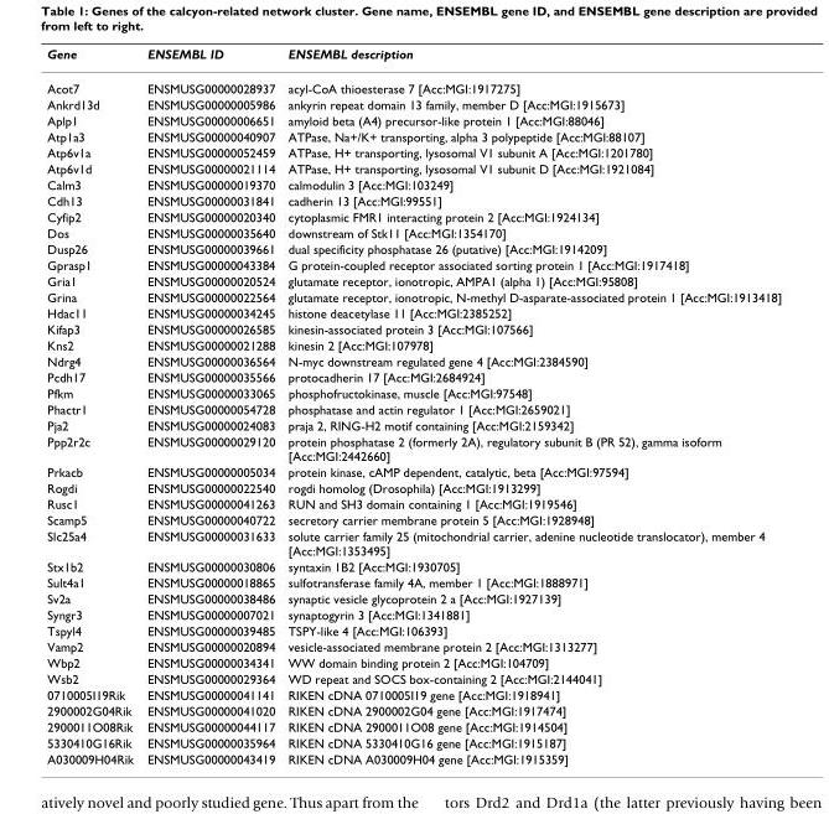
<table><thead><tr><td>Gene</td><td>ENSEMBL ID</td><td>ENSEMBL description</td></tr></thead><tbody><tr><td>Acot7</td><td>ENSMUSG00000028937</td><td>acyl-CoA thioesterase 7 [Acc:MGI:1917275]</td></tr><tr><td>Ankrd13d</td><td>ENSMUSG00000005986</td><td>ankyrin repeat domain 13 family, member D [Acc:MGI:1915673]</td></tr><tr><td>Aplp1</td><td>ENSMUSG00000006651</td><td>amyloid beta (A4) precursor-like protein 1 [Acc:MGI:88046]</td></tr><tr><td>Atp1a3</td><td>ENSMUSG00000040907</td><td>ATPase, Na+/K+ transporting, alpha 3 polypeptide [Acc:MGI:88107]</td></tr><tr><td>Atp6v1a</td><td>ENSMUSG00000052459</td><td>ATPase, H+ transporting, lysosomal V1 subunit A [Acc:MGI:1201780]</td></tr><tr><td>Atp6v1d</td><td>ENSMUSG00000021114</td><td>ATPase, H+ transporting, lysosomal V1 subunit D [Acc:MGI:1921084]</td></tr><tr><td>Calm3</td><td>ENSMUSG00000019370</td><td>calmodulin 3 [Acc:MGI:103249]</td></tr><tr><td>Cdh13</td><td>ENSMUSG00000031841</td><td>cadherin 13 [Acc:MGI:99551]</td></tr><tr><td>Cyfip2</td><td>ENSMUSG00000020340</td><td>cytoplasmic FMR1 interacting protein 2 [Acc:MGI:1924134]</td></tr><tr><td>Dos</td><td>ENSMUSG00000035640</td><td>downstream of Stk11 [Acc:MGI:1354170]</td></tr><tr><td>Dusp26</td><td>ENSMUSG00000039661</td><td>dual specificity phosphatase 26 (putative) [Acc:MGI:1914209]</td></tr><tr><td>Gprasp1</td><td>ENSMUSG00000043384</td><td>G protein-coupled receptor associated sorting protein 1 [Acc:MGI:1917418]</td></tr><tr><td>Gria1</td><td>ENSMUSG00000020524</td><td>glutamate receptor, ionotropic, AMPA1 (alpha 1) [Acc:MGI:95808]</td></tr><tr><td>Grina</td><td>ENSMUSG00000022564</td><td>glutamate receptor, ionotropic, N-methyl D-asparate-associated protein 1 [Acc:MGI:1913418]</td></tr><tr><td>Hdac11</td><td>ENSMUSG00000034245</td><td>histone deacetylase 11 [Acc:MGI:2385252]</td></tr><tr><td>Kifap3</td><td>ENSMUSG00000026585</td><td>kinesin-associated protein 3 [Acc:MGI:107566]</td></tr><tr><td>Kns2</td><td>ENSMUSG00000021288</td><td>kinesin 2 [Acc:MGI:107978]</td></tr><tr><td>Ndrg4</td><td>ENSMUSG00000036564</td><td>N-myc downstream regulated gene 4 [Acc:MGI:2384590]</td></tr><tr><td>Pcdh17</td><td>ENSMUSG00000035566</td><td>protocadherin 17 [Acc:MGI:2684924]</td></tr><tr><td>Pfkm</td><td>ENSMUSG00000033065</td><td>phosphofructokinase, muscle [Acc:MGI:97548]</td></tr><tr><td>Phactr1</td><td>ENSMUSG00000054728</td><td>phosphatase and actin regulator 1 [Acc:MGI:2659021]</td></tr><tr><td>Pja2</td><td>ENSMUSG00000024083</td><td>praja 2, RING-H2 motif containing [Acc:MGI:2159342]</td></tr><tr><td>Ppp2r2c</td><td>ENSMUSG00000029120</td><td>protein phosphatase 2 (formerly 2A), regulatory subunit B (PR 52), gamma isoform [Acc:MGI:2442660]</td></tr><tr><td>Prkacb</td><td>ENSMUSG00000005034</td><td>protein kinase, cAMP dependent, catalytic, beta [Acc:MGI:97594]</td></tr><tr><td>Rogdi</td><td>ENSMUSG00000022540</td><td>rogdi homolog (Drosophila) [Acc:MGI:1913299]</td></tr><tr><td>Rusc1</td><td>ENSMUSG00000041263</td><td>RUN and SH3 domain containing 1 [Acc:MGI:1919546]</td></tr><tr><td>Scamp5</td><td>ENSMUSG00000040722</td><td>secretory carrier membrane protein 5 [Acc:MGI:1928948]</td></tr><tr><td>Slc25a4</td><td>ENSMUSG00000031633</td><td>solute carrier family 25 (mitochondrial carrier, adenine nucleotide translocator), member 4 [Acc:MGI:1353495]</td></tr><tr><td>Stx1b2</td><td>ENSMUSG00000030806</td><td>syntaxin 1B2 [Acc:MGI:1930705]</td></tr><tr><td>Sult4a1</td><td>ENSMUSG00000018865</td><td>sulfotransferase family 4A, member 1 [Acc:MGI:1888971]</td></tr><tr><td>Sv2a</td><td>ENSMUSG00000038486</td><td>synaptic vesicle glycoprotein 2 a [Acc:MGI:1927139]</td></tr><tr><td>Syngr3</td><td>ENSMUSG00000007021</td><td>synaptogyrin 3 [Acc:MGI:1341881]</td></tr><tr><td>Tspyl4</td><td>ENSMUSG00000039485</td><td>TSPY-like 4 [Acc:MGI:106393]</td></tr><tr><td>Vamp2</td><td>ENSMUSG00000020894</td><td>vesicle-associated membrane protein 2 [Acc:MGI:1313277]</td></tr><tr><td>Wbp2</td><td>ENSMUSG00000034341</td><td>WW domain binding protein 2 [Acc:MGI:104709]</td></tr><tr><td>Wsb2</td><td>ENSMUSG00000029364</td><td>WD repeat and SOCS box-containing 2 [Acc:MGI:2144041]</td></tr><tr><td>0710005I19Rik</td><td>ENSMUSG00000041141</td><td>RIKEN cDNA 0710005I19 gene [Acc:MGI:1918941]</td></tr><tr><td>2900002G04Rik</td><td>ENSMUSG00000041020</td><td>RIKEN cDNA 2900002G04 gene [Acc:MGI:1917474]</td></tr><tr><td>2900011O08Rik</td><td>ENSMUSG00000044117</td><td>RIKEN cDNA 2900011O08 gene [Acc:MGI:1914504]</td></tr><tr><td>5330410G16Rik</td><td>ENSMUSG00000035964</td><td>RIKEN cDNA 5330410G16 gene [Acc:MGI:1915187]</td></tr><tr><td>A030009H04Rik</td><td>ENSMUSG00000043419</td><td>RIKEN cDNA A030009H04 gene [Acc:MGI:1915359]</td></tr></tbody></table>